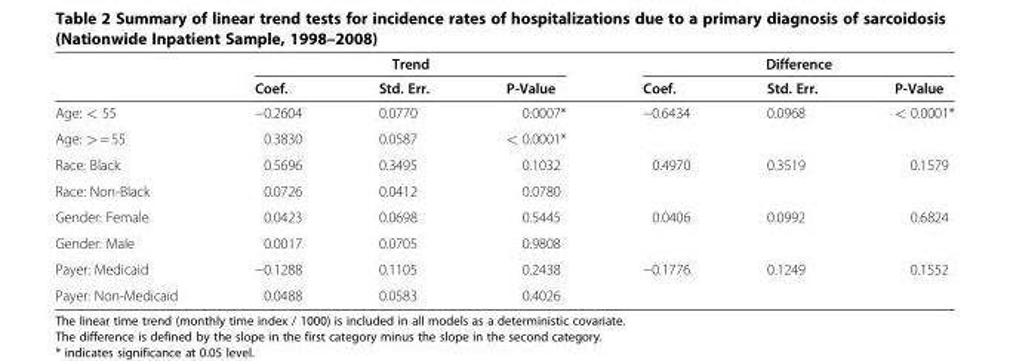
<table><thead><tr><td rowspan="2"></td><td colspan="3">Trend</td><td colspan="3">Difference</td></tr><tr><td>Coef.</td><td>Std. Err.</td><td>P-Value</td><td>Coef.</td><td>Std. Err.</td><td>P-Value</td></tr></thead><tbody><tr><td>Age: &lt; 55</td><td>−0.2604</td><td>0.0770</td><td>0.0007*</td><td rowspan="2">−0.6434</td><td rowspan="2">0.0968</td><td rowspan="2">&lt; 0.0001*</td></tr><tr><td>Age: &gt; = 55</td><td>0.3830</td><td>0.0587</td><td>&lt; 0.0001*</td></tr><tr><td>Race: Black</td><td>0.5696</td><td>0.3495</td><td>0.1032</td><td rowspan="2">0.4970</td><td rowspan="2">0.3519</td><td rowspan="2">0.1579</td></tr><tr><td>Race: Non-Black</td><td>0.0726</td><td>0.0412</td><td>0.0780</td></tr><tr><td>Gender: Female</td><td>0.0423</td><td>0.0698</td><td>0.5445</td><td rowspan="2">0.0406</td><td rowspan="2">0.0992</td><td rowspan="2">0.6824</td></tr><tr><td>Gender: Male</td><td>0.0017</td><td>0.0705</td><td>0.9808</td></tr><tr><td>Payer: Medicaid</td><td>−0.1288</td><td>0.1105</td><td>0.2438</td><td rowspan="2">−0.1776</td><td rowspan="2">0.1249</td><td rowspan="2">0.1552</td></tr><tr><td>Payer: Non-Medicaid</td><td>0.0488</td><td>0.0583</td><td>0.4026</td></tr></tbody></table>